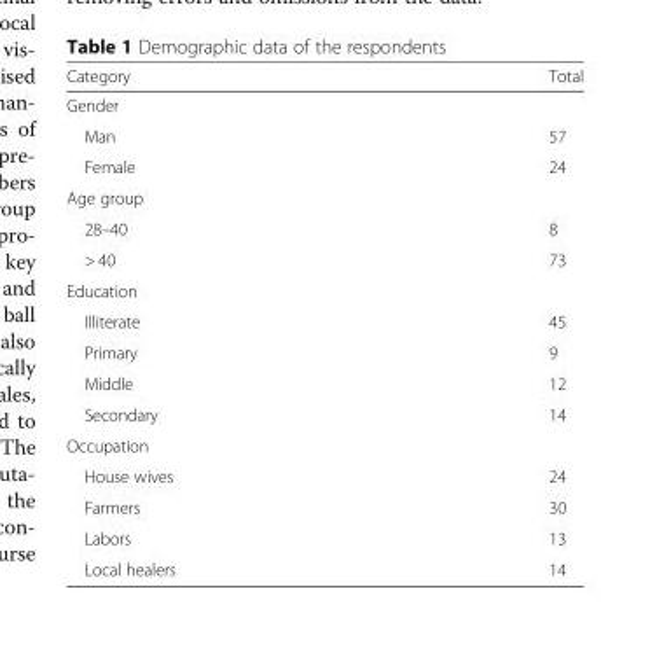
<table><thead><tr><td>Category</td><td>Total</td></tr></thead><tbody><tr><td colspan="2">Gender</td></tr><tr><td>Man</td><td>57</td></tr><tr><td>Female</td><td>24</td></tr><tr><td colspan="2">Age group</td></tr><tr><td>28–40</td><td>8</td></tr><tr><td>&gt; 40</td><td>73</td></tr><tr><td colspan="2">Education</td></tr><tr><td>Illiterate</td><td>45</td></tr><tr><td>Primary</td><td>9</td></tr><tr><td>Middle</td><td>12</td></tr><tr><td>Secondary</td><td>14</td></tr><tr><td colspan="2">Occupation</td></tr><tr><td>House wives</td><td>24</td></tr><tr><td>Farmers</td><td>30</td></tr><tr><td>Labors</td><td>13</td></tr><tr><td>Local healers</td><td>14</td></tr></tbody></table>